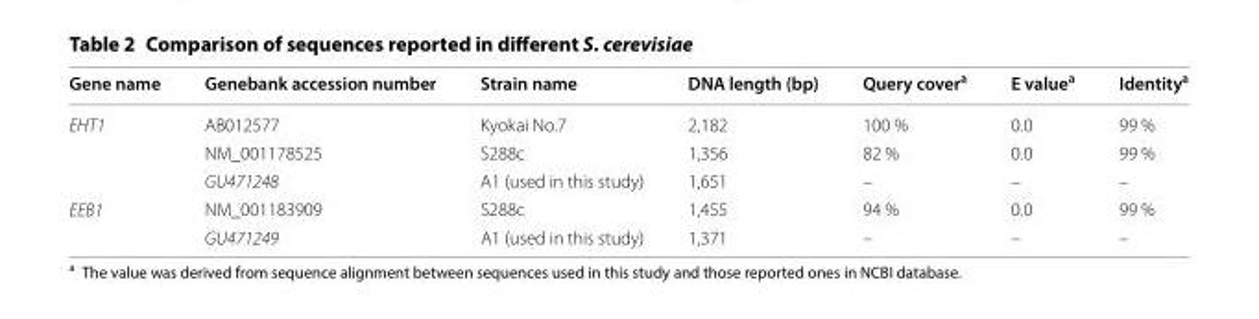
<table><thead><tr><td>Gene name</td><td>Genebank accession number</td><td>Strain name</td><td>DNA length (bp)</td><td>Query cover<sup>a</sup></td><td>E value<sup>a</sup></td><td>Identity<sup>a</sup></td></tr></thead><tbody><tr><td rowspan="3">EHT1</td><td>AB012577</td><td>Kyokai No.7</td><td>2,182</td><td>100 %</td><td>0.0</td><td>99 %</td></tr><tr><td>NM_001178525</td><td>S288c</td><td>1,356</td><td>82 %</td><td>0.0</td><td>99 %</td></tr><tr><td>GU471248</td><td>A1 (used in this study)</td><td>1,651</td><td>–</td><td>–</td><td>–</td></tr><tr><td rowspan="2">EEB1</td><td>NM_001183909</td><td>S288c</td><td>1,455</td><td>94 %</td><td>0.0</td><td>99 %</td></tr><tr><td>GU471249</td><td>A1 (used in this study)</td><td>1,371</td><td>–</td><td>–</td><td>–</td></tr></tbody></table>